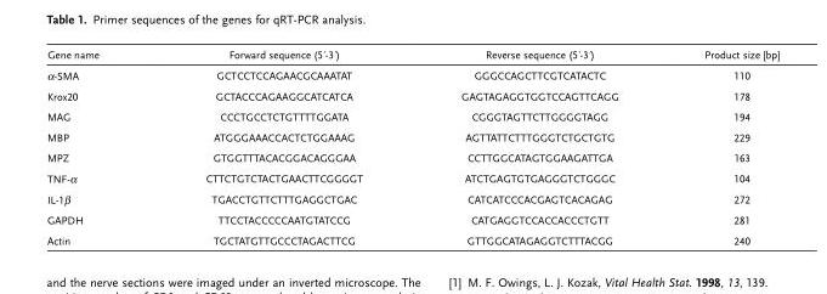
<table><thead><tr><td>Gene name</td><td>Forward sequence (5ʹ-3ʹ)</td><td>Reverse sequence (5ʹ-3ʹ)</td><td>Product size [bp]</td></tr></thead><tbody><tr><td>α-SMA</td><td>GCTCCTCCAGAACGCAAATAT</td><td>GGGCCAGCTTCGTCATACTC</td><td>110</td></tr><tr><td>Krox20</td><td>GCTACCCAGAAGGCATCATCA</td><td>GAGTAGAGGTGGTCCAGTTCAGG</td><td>178</td></tr><tr><td>MAG</td><td>CCCTGCCTCTGTTTTGGATA</td><td>CGGGTAGTTCTTGGGGTAGG</td><td>194</td></tr><tr><td>MBP</td><td>ATGGGAAACCACTCTGGAAAG</td><td>AGTTATTCTTTGGGTCTGCTGTG</td><td>229</td></tr><tr><td>MPZ</td><td>GTGGTTTACACGGACAGGGAA</td><td>CCTTGGCATAGTGGAAGATTGA</td><td>163</td></tr><tr><td>TNF-α</td><td>CTTCTGTCTACTGAACTTCGGGGT</td><td>ATCTGAGTGTGAGGGTCTGGGC</td><td>104</td></tr><tr><td>IL-1β</td><td>TGACCTGTTCTTTGAGGCTGAC</td><td>CATCATCCCACGAGTCACAGAG</td><td>272</td></tr><tr><td>GAPDH</td><td>TTCCTACCCCCAATGTATCCG</td><td>CATGAGGTCCACCACCCTGTT</td><td>281</td></tr><tr><td>Actin</td><td>TGCTATGTTGCCCTAGACTTCG</td><td>GTTGGCATAGAGGTCTTTACGG</td><td>240</td></tr></tbody></table>